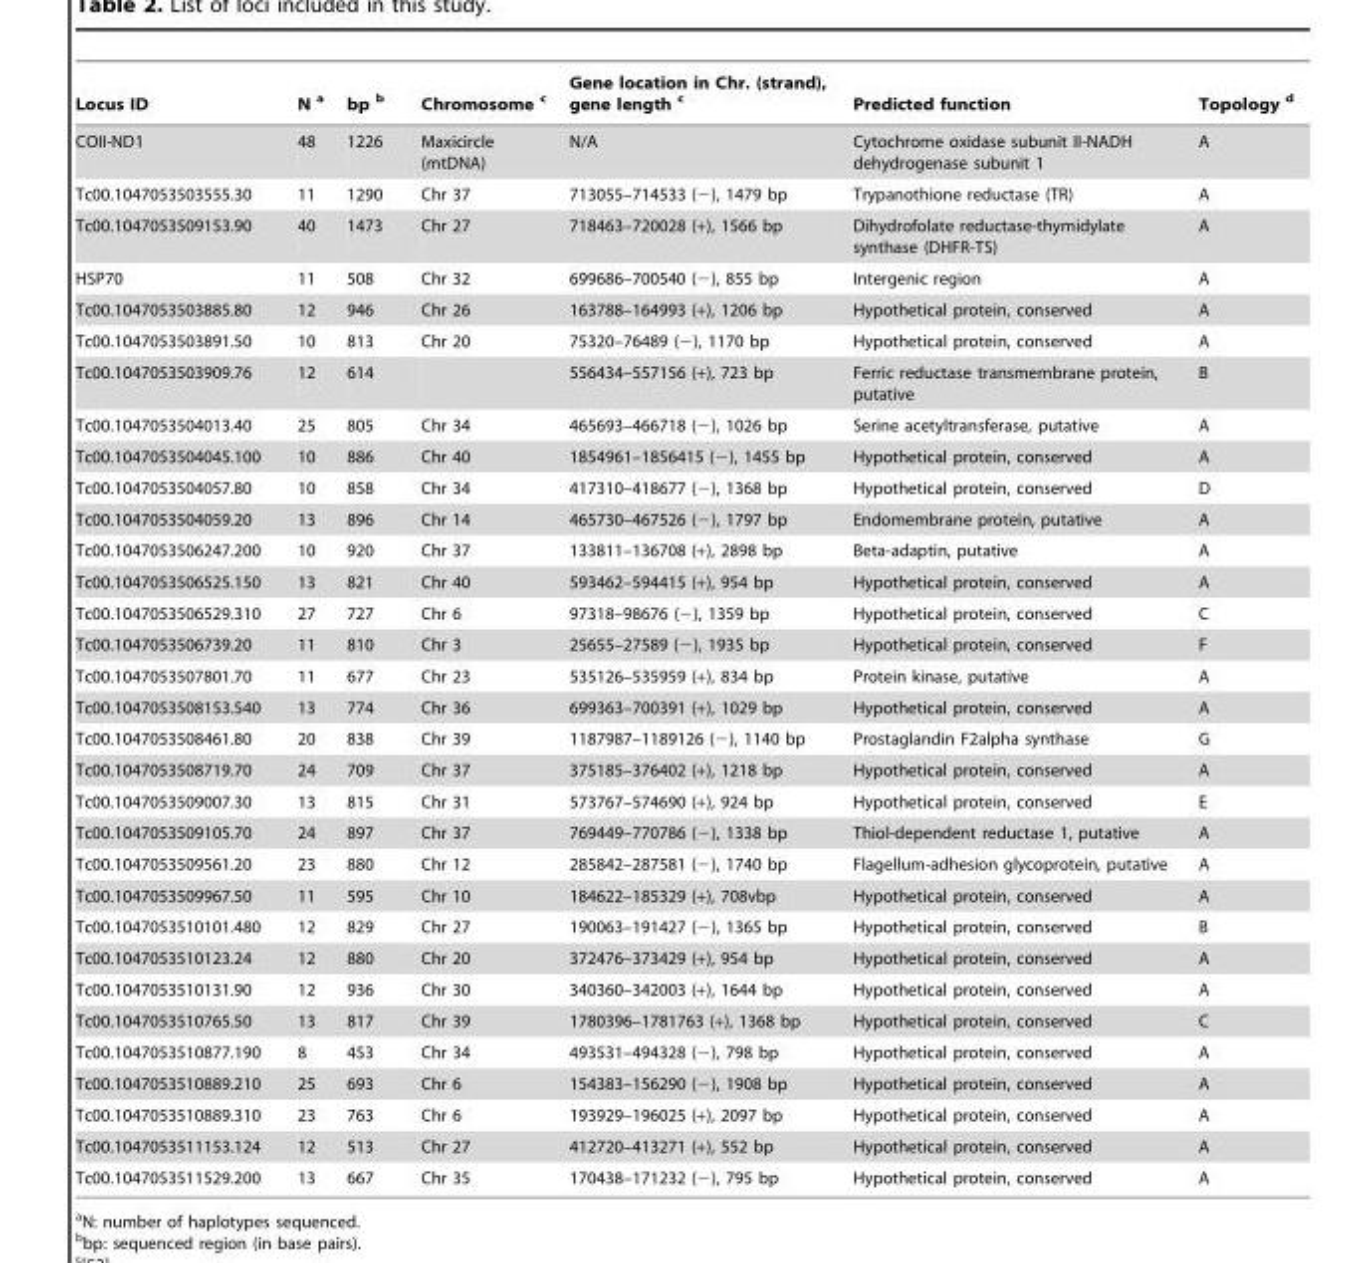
<table><thead><tr><td>Locus ID</td><td>N a</td><td>bp b</td><td>Chromosome c</td><td>Gene location in Chr. (strand), gene length c</td><td>Predicted function</td><td>Topology d</td></tr></thead><tbody><tr><td>COII-ND1</td><td>48</td><td>1226</td><td>Maxicircle (mtDNA)</td><td>N/A</td><td>Cytochrome oxidase subunit II-NADH dehydrogenase subunit 1</td><td>A</td></tr><tr><td>Tc00.1047053503555.30</td><td>11</td><td>1290</td><td>Chr 37</td><td>713055–714533 (−), 1479 bp</td><td>Trypanothione reductase (TR)</td><td>A</td></tr><tr><td>Tc00.1047053509153.90</td><td>40</td><td>1473</td><td>Chr 27</td><td>718463–720028 (+), 1566 bp</td><td>Dihydrofolate reductase-thymidylate synthase (DHFR-TS)</td><td>A</td></tr><tr><td>HSP70</td><td>11</td><td>508</td><td>Chr 32</td><td>699686–700540 (−), 855 bp</td><td>Intergenic region</td><td>A</td></tr><tr><td>Tc00.1047053503885.80</td><td>12</td><td>946</td><td>Chr 26</td><td>163788–164993 (+), 1206 bp</td><td>Hypothetical protein, conserved</td><td>A</td></tr><tr><td>Tc00.1047053503891.50</td><td>10</td><td>813</td><td>Chr 20</td><td>75320–76489 (−), 1170 bp</td><td>Hypothetical protein, conserved</td><td>A</td></tr><tr><td>Tc00.1047053503909.76</td><td>12</td><td>614</td><td></td><td>556434–557156 (+), 723 bp</td><td>Ferric reductase transmembrane protein, putative</td><td>B</td></tr><tr><td>Tc00.1047053504013.40</td><td>25</td><td>805</td><td>Chr 34</td><td>465693–466718 (−), 1026 bp</td><td>Serine acetyltransferase, putative</td><td>A</td></tr><tr><td>Tc00.1047053504045.100</td><td>10</td><td>886</td><td>Chr 40</td><td>1854961–1856415 (−), 1455 bp</td><td>Hypothetical protein, conserved</td><td>A</td></tr><tr><td>Tc00.1047053504057.80</td><td>10</td><td>858</td><td>Chr 34</td><td>417310–418677 (−), 1368 bp</td><td>Hypothetical protein, conserved</td><td>D</td></tr><tr><td>Tc00.1047053504059.20</td><td>13</td><td>896</td><td>Chr 14</td><td>465730–467526 (−), 1797 bp</td><td>Endomembrane protein, putative</td><td>A</td></tr><tr><td>Tc00.1047053506247.200</td><td>10</td><td>920</td><td>Chr 37</td><td>133811–136708 (+), 2898 bp</td><td>Beta-adaptin, putative</td><td>A</td></tr><tr><td>Tc00.1047053506525.150</td><td>13</td><td>821</td><td>Chr 40</td><td>593462–594415 (+), 954 bp</td><td>Hypothetical protein, conserved</td><td>A</td></tr><tr><td>Tc00.1047053506529.310</td><td>27</td><td>727</td><td>Chr 6</td><td>97318–98676 (−), 1359 bp</td><td>Hypothetical protein, conserved</td><td>C</td></tr><tr><td>Tc00.1047053506739.20</td><td>11</td><td>810</td><td>Chr 3</td><td>25655–27589 (−), 1935 bp</td><td>Hypothetical protein, conserved</td><td>F</td></tr><tr><td>Tc00.1047053507801.70</td><td>11</td><td>677</td><td>Chr 23</td><td>535126–535959 (+), 834 bp</td><td>Protein kinase, putative</td><td>A</td></tr><tr><td>Tc00.1047053508153.540</td><td>13</td><td>774</td><td>Chr 36</td><td>699363–700391 (+), 1029 bp</td><td>Hypothetical protein, conserved</td><td>A</td></tr><tr><td>Tc00.1047053508461.80</td><td>20</td><td>838</td><td>Chr 39</td><td>1187987–1189126 (−), 1140 bp</td><td>Prostaglandin F2alpha synthase</td><td>G</td></tr><tr><td>Tc00.1047053508719.70</td><td>24</td><td>709</td><td>Chr 37</td><td>375185–376402 (+), 1218 bp</td><td>Hypothetical protein, conserved</td><td>A</td></tr><tr><td>Tc00.1047053509007.30</td><td>13</td><td>815</td><td>Chr 31</td><td>573767–574690 (+), 924 bp</td><td>Hypothetical protein, conserved</td><td>E</td></tr><tr><td>Tc00.1047053509105.70</td><td>24</td><td>897</td><td>Chr 37</td><td>769449–770786 (−), 1338 bp</td><td>Thiol-dependent reductase 1, putative</td><td>A</td></tr><tr><td>Tc00.1047053509561.20</td><td>23</td><td>880</td><td>Chr 12</td><td>285842–287581 (−), 1740 bp</td><td>Flagellum-adhesion glycoprotein, putative</td><td>A</td></tr><tr><td>Tc00.1047053509967.50</td><td>11</td><td>595</td><td>Chr 10</td><td>184622–185329 (+), 708vbp</td><td>Hypothetical protein, conserved</td><td>A</td></tr><tr><td>Tc00.1047053510101.480</td><td>12</td><td>829</td><td>Chr 27</td><td>190063–191427 (−), 1365 bp</td><td>Hypothetical protein, conserved</td><td>B</td></tr><tr><td>Tc00.1047053510123.24</td><td>12</td><td>880</td><td>Chr 20</td><td>372476–373429 (+), 954 bp</td><td>Hypothetical protein, conserved</td><td>A</td></tr><tr><td>Tc00.1047053510131.90</td><td>12</td><td>936</td><td>Chr 30</td><td>340360–342003 (+), 1644 bp</td><td>Hypothetical protein, conserved</td><td>A</td></tr><tr><td>Tc00.1047053510765.50</td><td>13</td><td>817</td><td>Chr 39</td><td>1780396–1781763 (+), 1368 bp</td><td>Hypothetical protein, conserved</td><td>C</td></tr><tr><td>Tc00.1047053510877.190</td><td>8</td><td>453</td><td>Chr 34</td><td>493531–494328 (−), 798 bp</td><td>Hypothetical protein, conserved</td><td>A</td></tr><tr><td>Tc00.1047053510889.210</td><td>25</td><td>693</td><td>Chr 6</td><td>154383–156290 (−), 1908 bp</td><td>Hypothetical protein, conserved</td><td>A</td></tr><tr><td>Tc00.1047053510889.310</td><td>23</td><td>763</td><td>Chr 6</td><td>193929–196025 (+), 2097 bp</td><td>Hypothetical protein, conserved</td><td>A</td></tr><tr><td>Tc00.1047053511153.124</td><td>12</td><td>513</td><td>Chr 27</td><td>412720–413271 (+), 552 bp</td><td>Hypothetical protein, conserved</td><td>A</td></tr><tr><td>Tc00.1047053511529.200</td><td>13</td><td>667</td><td>Chr 35</td><td>170438–171232 (−), 795 bp</td><td>Hypothetical protein, conserved</td><td>A</td></tr></tbody></table>